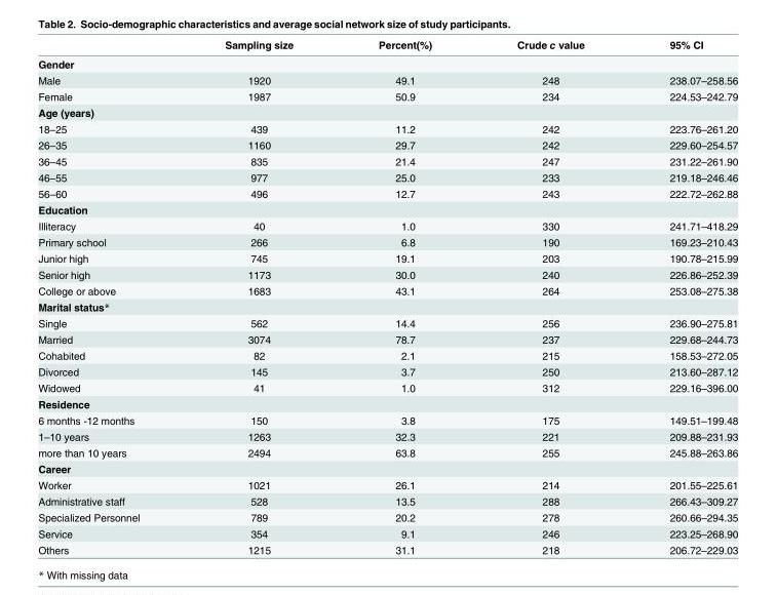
<table><thead><tr><td></td><td>Sampling size</td><td>Percent(%)</td><td>Crude c value</td><td>95% CI</td></tr></thead><tbody><tr><td colspan="5">Gender</td></tr><tr><td>Male</td><td>1920</td><td>49.1</td><td>248</td><td>238.07–258.56</td></tr><tr><td>Female</td><td>1987</td><td>50.9</td><td>234</td><td>224.53–242.79</td></tr><tr><td colspan="5">Age (years)</td></tr><tr><td>18–25</td><td>439</td><td>11.2</td><td>242</td><td>223.76–261.20</td></tr><tr><td>26–35</td><td>1160</td><td>29.7</td><td>242</td><td>229.60–254.57</td></tr><tr><td>36–45</td><td>835</td><td>21.4</td><td>247</td><td>231.22–261.90</td></tr><tr><td>46–55</td><td>977</td><td>25.0</td><td>233</td><td>219.18–246.46</td></tr><tr><td>56–60</td><td>496</td><td>12.7</td><td>243</td><td>222.72–262.88</td></tr><tr><td colspan="5">Education</td></tr><tr><td>Illiteracy</td><td>40</td><td>1.0</td><td>330</td><td>241.71–418.29</td></tr><tr><td>Primary school</td><td>266</td><td>6.8</td><td>190</td><td>169.23–210.43</td></tr><tr><td>Junior high</td><td>745</td><td>19.1</td><td>203</td><td>190.78–215.99</td></tr><tr><td>Senior high</td><td>1173</td><td>30.0</td><td>240</td><td>226.86–252.39</td></tr><tr><td>College or above</td><td>1683</td><td>43.1</td><td>264</td><td>253.08–275.38</td></tr><tr><td colspan="5">Marital status*</td></tr><tr><td>Single</td><td>562</td><td>14.4</td><td>256</td><td>236.90–275.81</td></tr><tr><td>Married</td><td>3074</td><td>78.7</td><td>237</td><td>229.68–244.73</td></tr><tr><td>Cohabited</td><td>82</td><td>2.1</td><td>215</td><td>158.53–272.05</td></tr><tr><td>Divorced</td><td>145</td><td>3.7</td><td>250</td><td>213.60–287.12</td></tr><tr><td>Widowed</td><td>41</td><td>1.0</td><td>312</td><td>229.16–396.00</td></tr><tr><td colspan="5">Residence</td></tr><tr><td>6 months -12 months</td><td>150</td><td>3.8</td><td>175</td><td>149.51–199.48</td></tr><tr><td>1–10 years</td><td>1263</td><td>32.3</td><td>221</td><td>209.88–231.93</td></tr><tr><td>more than 10 years</td><td>2494</td><td>63.8</td><td>255</td><td>245.88–263.86</td></tr><tr><td colspan="5">Career</td></tr><tr><td>Worker</td><td>1021</td><td>26.1</td><td>214</td><td>201.55–225.61</td></tr><tr><td>Administrative staff</td><td>528</td><td>13.5</td><td>288</td><td>266.43–309.27</td></tr><tr><td>Specialized Personnel</td><td>789</td><td>20.2</td><td>278</td><td>260.66–294.35</td></tr><tr><td>Service</td><td>354</td><td>9.1</td><td>246</td><td>223.25–268.90</td></tr><tr><td>Others</td><td>1215</td><td>31.1</td><td>218</td><td>206.72–229.03</td></tr></tbody></table>